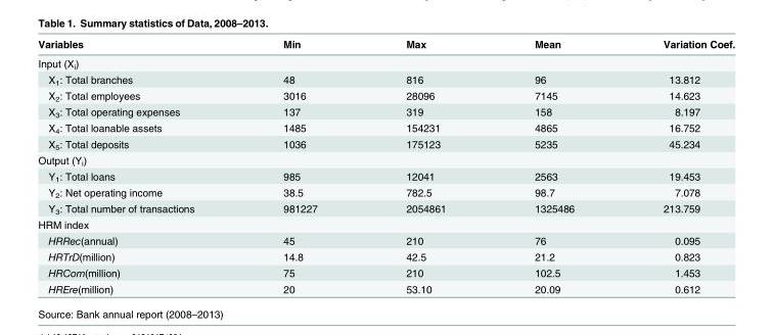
<table><thead><tr><td>Variables</td><td>Min</td><td>Max</td><td>Mean</td><td>Variation Coef.</td></tr></thead><tbody><tr><td colspan="5">Input (X<sub>i</sub>)</td></tr><tr><td>X<sub>1</sub>: Total branches</td><td>48</td><td>816</td><td>96</td><td>13.812</td></tr><tr><td>X<sub>2</sub>: Total employees</td><td>3016</td><td>28096</td><td>7145</td><td>14.623</td></tr><tr><td>X<sub>3</sub>: Total operating expenses</td><td>137</td><td>319</td><td>158</td><td>8.197</td></tr><tr><td>X<sub>4</sub>: Total loanable assets</td><td>1485</td><td>154231</td><td>4865</td><td>16.752</td></tr><tr><td>X<sub>5</sub>: Total deposits</td><td>1036</td><td>175123</td><td>5235</td><td>45.234</td></tr><tr><td colspan="5">Output (Y<sub>i</sub>)</td></tr><tr><td>Y<sub>1</sub>: Total loans</td><td>985</td><td>12041</td><td>2563</td><td>19.453</td></tr><tr><td>Y<sub>2</sub>: Net operating income</td><td>38.5</td><td>782.5</td><td>98.7</td><td>7.078</td></tr><tr><td>Y<sub>3</sub>: Total number of transactions</td><td>981227</td><td>2054861</td><td>1325486</td><td>213.759</td></tr><tr><td colspan="5">HRM index</td></tr><tr><td>HRRec(annual)</td><td>45</td><td>210</td><td>76</td><td>0.095</td></tr><tr><td>HRTrD(million)</td><td>14.8</td><td>42.5</td><td>21.2</td><td>0.823</td></tr><tr><td>HRCom(million)</td><td>75</td><td>210</td><td>102.5</td><td>1.453</td></tr><tr><td>HREre(million)</td><td>20</td><td>53.10</td><td>20.09</td><td>0.612</td></tr></tbody></table>